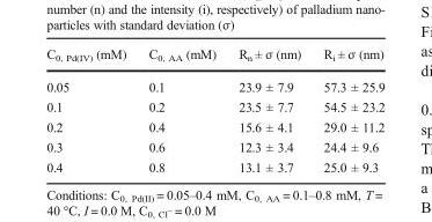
<table><thead><tr><td>C<sub>0, Pd(IV)</sub> (mM)</td><td>C<sub>0, AA</sub> (mM)</td><td>R<sub>n</sub> ± σ (nm)</td><td>R<sub>i</sub> ± σ (nm)</td></tr></thead><tbody><tr><td>0.05</td><td>0.1</td><td>23.9 ± 7.9</td><td>57.3 ± 25.9</td></tr><tr><td>0.1</td><td>0.2</td><td>23.5 ± 7.7</td><td>54.5 ± 23.2</td></tr><tr><td>0.2</td><td>0.4</td><td>15.6 ± 4.1</td><td>29.0 ± 11.2</td></tr><tr><td>0.3</td><td>0.6</td><td>12.3 ± 3.4</td><td>24.4 ± 9.6</td></tr><tr><td>0.4</td><td>0.8</td><td>13.1 ± 3.7</td><td>25.0 ± 9.3</td></tr></tbody></table>